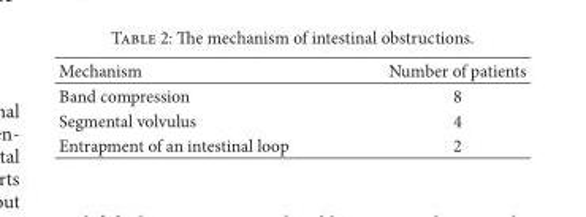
<table><thead><tr><td>Mechanism</td><td>Number of patients</td></tr></thead><tbody><tr><td>Band compression</td><td>8</td></tr><tr><td>Segmental volvulus</td><td>4</td></tr><tr><td>Entrapment of an intestinal loop</td><td>2</td></tr></tbody></table>